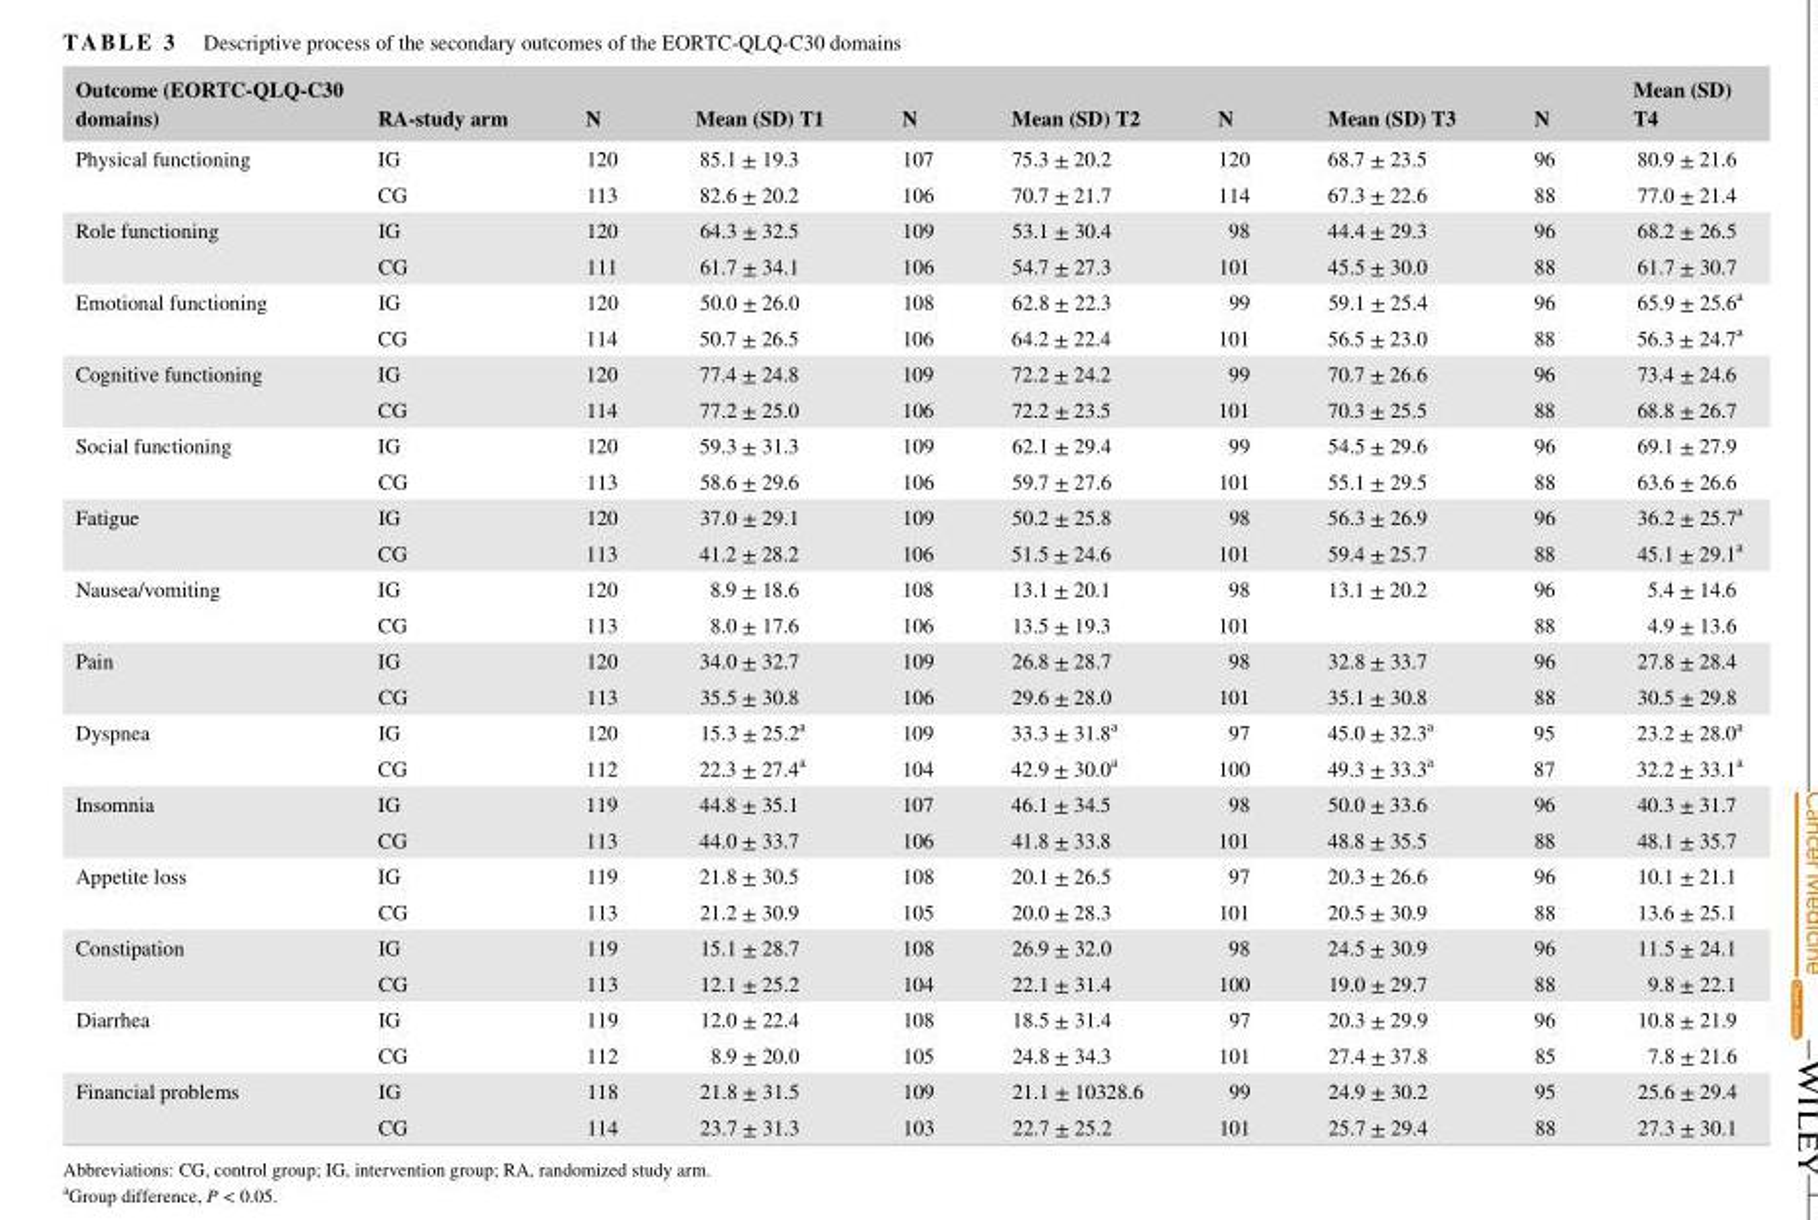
<table><thead><tr><td>Outcome (EORTC‐QLQ‐C30 domains)</td><td>RA‐study arm</td><td>N</td><td>Mean (SD) T1</td><td>N</td><td>Mean (SD) T2</td><td>N</td><td>Mean (SD) T3</td><td>N</td><td>Mean (SD) T4</td></tr></thead><tbody><tr><td rowspan="2">Physical functioning</td><td>IG</td><td>120</td><td>85.1 ± 19.3</td><td>107</td><td>75.3 ± 20.2</td><td>120</td><td>68.7 ± 23.5</td><td>96</td><td>80.9 ± 21.6</td></tr><tr><td>CG</td><td>113</td><td>82.6 ± 20.2</td><td>106</td><td>70.7 ± 21.7</td><td>114</td><td>67.3 ± 22.6</td><td>88</td><td>77.0 ± 21.4</td></tr><tr><td rowspan="2">Role functioning</td><td>IG</td><td>120</td><td>64.3 ± 32.5</td><td>109</td><td>53.1 ± 30.4</td><td>98</td><td>44.4 ± 29.3</td><td>96</td><td>68.2 ± 26.5</td></tr><tr><td>CG</td><td>111</td><td>61.7 ± 34.1</td><td>106</td><td>54.7 ± 27.3</td><td>101</td><td>45.5 ± 30.0</td><td>88</td><td>61.7 ± 30.7</td></tr><tr><td rowspan="2">Emotional functioning</td><td>IG</td><td>120</td><td>50.0 ± 26.0</td><td>108</td><td>62.8 ± 22.3</td><td>99</td><td>59.1 ± 25.4</td><td>96</td><td>65.9 ± 25.6<sup>a</sup></td></tr><tr><td>CG</td><td>114</td><td>50.7 ± 26.5</td><td>106</td><td>64.2 ± 22.4</td><td>101</td><td>56.5 ± 23.0</td><td>88</td><td>56.3 ± 24.7<sup>a</sup></td></tr><tr><td rowspan="2">Cognitive functioning</td><td>IG</td><td>120</td><td>77.4 ± 24.8</td><td>109</td><td>72.2 ± 24.2</td><td>99</td><td>70.7 ± 26.6</td><td>96</td><td>73.4 ± 24.6</td></tr><tr><td>CG</td><td>114</td><td>77.2 ± 25.0</td><td>106</td><td>72.2 ± 23.5</td><td>101</td><td>70.3 ± 25.5</td><td>88</td><td>68.8 ± 26.7</td></tr><tr><td rowspan="2">Social functioning</td><td>IG</td><td>120</td><td>59.3 ± 31.3</td><td>109</td><td>62.1 ± 29.4</td><td>99</td><td>54.5 ± 29.6</td><td>96</td><td>69.1 ± 27.9</td></tr><tr><td>CG</td><td>113</td><td>58.6 ± 29.6</td><td>106</td><td>59.7 ± 27.6</td><td>101</td><td>55.1 ± 29.5</td><td>88</td><td>63.6 ± 26.6</td></tr><tr><td rowspan="2">Fatigue</td><td>IG</td><td>120</td><td>37.0 ± 29.1</td><td>109</td><td>50.2 ± 25.8</td><td>98</td><td>56.3 ± 26.9</td><td>96</td><td>36.2 ± 25.7<sup>a</sup></td></tr><tr><td>CG</td><td>113</td><td>41.2 ± 28.2</td><td>106</td><td>51.5 ± 24.6</td><td>101</td><td>59.4 ± 25.7</td><td>88</td><td>45.1 ± 29.1<sup>a</sup></td></tr><tr><td rowspan="2">Nausea/vomiting</td><td>IG</td><td>120</td><td>8.9 ± 18.6</td><td>108</td><td>13.1 ± 20.1</td><td>98</td><td>13.1 ± 20.2</td><td>96</td><td>5.4 ± 14.6</td></tr><tr><td>CG</td><td>113</td><td>8.0 ± 17.6</td><td>106</td><td>13.5 ± 19.3</td><td>101</td><td></td><td>88</td><td>4.9 ± 13.6</td></tr><tr><td rowspan="2">Pain</td><td>IG</td><td>120</td><td>34.0 ± 32.7</td><td>109</td><td>26.8 ± 28.7</td><td>98</td><td>32.8 ± 33.7</td><td>96</td><td>27.8 ± 28.4</td></tr><tr><td>CG</td><td>113</td><td>35.5 ± 30.8</td><td>106</td><td>29.6 ± 28.0</td><td>101</td><td>35.1 ± 30.8</td><td>88</td><td>30.5 ± 29.8</td></tr><tr><td rowspan="2">Dyspnea</td><td>IG</td><td>120</td><td>15.3 ± 25.2<sup>a</sup></td><td>109</td><td>33.3 ± 31.8<sup>a</sup></td><td>97</td><td>45.0 ± 32.3<sup>a</sup></td><td>95</td><td>23.2 ± 28.0<sup>a</sup></td></tr><tr><td>CG</td><td>112</td><td>22.3 ± 27.4<sup>a</sup></td><td>104</td><td>42.9 ± 30.0<sup>a</sup></td><td>100</td><td>49.3 ± 33.3<sup>a</sup></td><td>87</td><td>32.2 ± 33.1<sup>a</sup></td></tr><tr><td rowspan="2">Insomnia</td><td>IG</td><td>119</td><td>44.8 ± 35.1</td><td>107</td><td>46.1 ± 34.5</td><td>98</td><td>50.0 ± 33.6</td><td>96</td><td>40.3 ± 31.7</td></tr><tr><td>CG</td><td>113</td><td>44.0 ± 33.7</td><td>106</td><td>41.8 ± 33.8</td><td>101</td><td>48.8 ± 35.5</td><td>88</td><td>48.1 ± 35.7</td></tr><tr><td rowspan="2">Appetite loss</td><td>IG</td><td>119</td><td>21.8 ± 30.5</td><td>108</td><td>20.1 ± 26.5</td><td>97</td><td>20.3 ± 26.6</td><td>96</td><td>10.1 ± 21.1</td></tr><tr><td>CG</td><td>113</td><td>21.2 ± 30.9</td><td>105</td><td>20.0 ± 28.3</td><td>101</td><td>20.5 ± 30.9</td><td>88</td><td>13.6 ± 25.1</td></tr><tr><td rowspan="2">Constipation</td><td>IG</td><td>119</td><td>15.1 ± 28.7</td><td>108</td><td>26.9 ± 32.0</td><td>98</td><td>24.5 ± 30.9</td><td>96</td><td>11.5 ± 24.1</td></tr><tr><td>CG</td><td>113</td><td>12.1 ± 25.2</td><td>104</td><td>22.1 ± 31.4</td><td>100</td><td>19.0 ± 29.7</td><td>88</td><td>9.8 ± 22.1</td></tr><tr><td rowspan="2">Diarrhea</td><td>IG</td><td>119</td><td>12.0 ± 22.4</td><td>108</td><td>18.5 ± 31.4</td><td>97</td><td>20.3 ± 29.9</td><td>96</td><td>10.8 ± 21.9</td></tr><tr><td>CG</td><td>112</td><td>8.9 ± 20.0</td><td>105</td><td>24.8 ± 34.3</td><td>101</td><td>27.4 ± 37.8</td><td>85</td><td>7.8 ± 21.6</td></tr><tr><td rowspan="2">Financial problems</td><td>IG</td><td>118</td><td>21.8 ± 31.5</td><td>109</td><td>21.1 ± 10328.6</td><td>99</td><td>24.9 ± 30.2</td><td>95</td><td>25.6 ± 29.4</td></tr><tr><td>CG</td><td>114</td><td>23.7 ± 31.3</td><td>103</td><td>22.7 ± 25.2</td><td>101</td><td>25.7 ± 29.4</td><td>88</td><td>27.3 ± 30.1</td></tr></tbody></table>